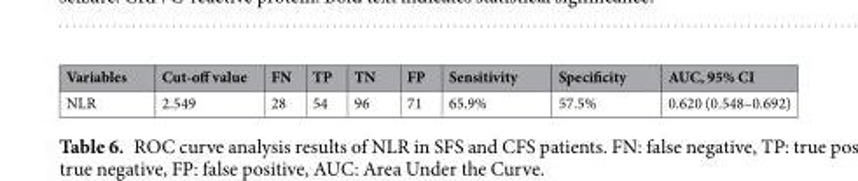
<table><thead><tr><td>Variables</td><td>Cut-off value</td><td>FN</td><td>TP</td><td>TN</td><td>FP</td><td>Sensitivity</td><td>Specificity</td><td>AUC, 95% CI</td></tr></thead><tbody><tr><td>NLR</td><td>2.549</td><td>28</td><td>54</td><td>96</td><td>71</td><td>65.9%</td><td>57.5%</td><td>0.620 (0.548–0.692)</td></tr></tbody></table>